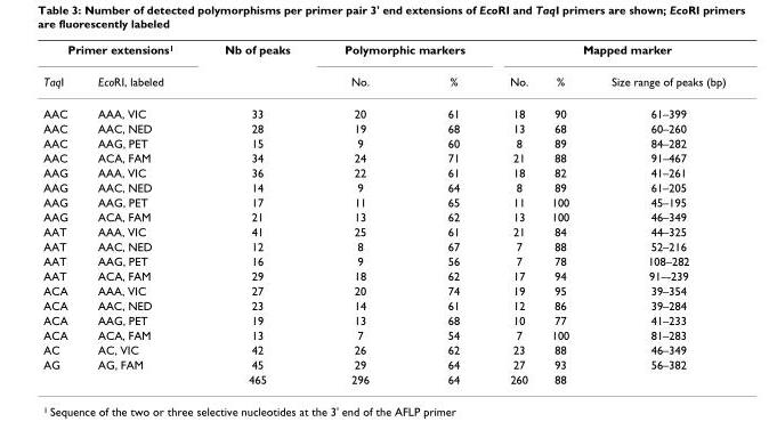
<table><thead><tr><td colspan="2">Primer extensions<sup>1</sup></td><td rowspan="2">Nb of peaks</td><td colspan="2">Polymorphic markers</td><td colspan="3">Mapped marker</td></tr><tr><td>TaqI</td><td>EcoRI, labeled</td><td>No.</td><td>%</td><td>No.</td><td>%</td><td>Size range of peaks (bp)</td></tr></thead><tbody><tr><td>AAC</td><td>AAA, VIC</td><td>33</td><td>20</td><td>61</td><td>18</td><td>90</td><td>61–399</td></tr><tr><td>AAC</td><td>AAC, NED</td><td>28</td><td>19</td><td>68</td><td>13</td><td>68</td><td>60–260</td></tr><tr><td>AAC</td><td>AAG, PET</td><td>15</td><td>9</td><td>60</td><td>8</td><td>89</td><td>84–282</td></tr><tr><td>AAC</td><td>ACA, FAM</td><td>34</td><td>24</td><td>71</td><td>21</td><td>88</td><td>91–467</td></tr><tr><td>AAG</td><td>AAA, VIC</td><td>36</td><td>22</td><td>61</td><td>18</td><td>82</td><td>41–261</td></tr><tr><td>AAG</td><td>AAC, NED</td><td>14</td><td>9</td><td>64</td><td>8</td><td>89</td><td>61–205</td></tr><tr><td>AAG</td><td>AAG, PET</td><td>17</td><td>11</td><td>65</td><td>11</td><td>100</td><td>45–195</td></tr><tr><td>AAG</td><td>ACA, FAM</td><td>21</td><td>13</td><td>62</td><td>13</td><td>100</td><td>46–349</td></tr><tr><td>AAT</td><td>AAA, VIC</td><td>41</td><td>25</td><td>61</td><td>21</td><td>84</td><td>44–325</td></tr><tr><td>AAT</td><td>AAC, NED</td><td>12</td><td>8</td><td>67</td><td>7</td><td>88</td><td>52–216</td></tr><tr><td>AAT</td><td>AAG, PET</td><td>16</td><td>9</td><td>56</td><td>7</td><td>78</td><td>108–282</td></tr><tr><td>AAT</td><td>ACA, FAM</td><td>29</td><td>18</td><td>62</td><td>17</td><td>94</td><td>91–-239</td></tr><tr><td>ACA</td><td>AAA, VIC</td><td>27</td><td>20</td><td>74</td><td>19</td><td>95</td><td>39–354</td></tr><tr><td>ACA</td><td>AAC, NED</td><td>23</td><td>14</td><td>61</td><td>12</td><td>86</td><td>39–284</td></tr><tr><td>ACA</td><td>AAG, PET</td><td>19</td><td>13</td><td>68</td><td>10</td><td>77</td><td>41–233</td></tr><tr><td>ACA</td><td>ACA, FAM</td><td>13</td><td>7</td><td>54</td><td>7</td><td>100</td><td>81–283</td></tr><tr><td>AC</td><td>AC, VIC</td><td>42</td><td>26</td><td>62</td><td>23</td><td>88</td><td>46–349</td></tr><tr><td rowspan="2">AG</td><td>AG, FAM</td><td>45</td><td>29</td><td>64</td><td>27</td><td>93</td><td>56–382</td></tr><tr><td></td><td>465</td><td>296</td><td>64</td><td>260</td><td>88</td><td></td></tr></tbody></table>